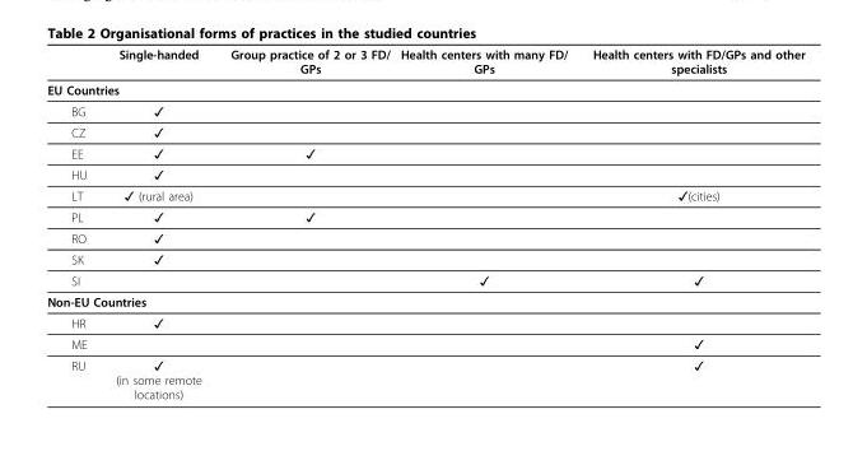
<table><thead><tr><td></td><td>Single-handed</td><td>Group practice of 2 or 3 FD/ GPs</td><td>Health centers with many FD/ GPs</td><td>Health centers with FD/GPs and other specialists</td></tr></thead><tbody><tr><td colspan="5">EU Countries</td></tr><tr><td>BG</td><td>✓</td><td></td><td></td><td></td></tr><tr><td>CZ</td><td>✓</td><td></td><td></td><td></td></tr><tr><td>EE</td><td>✓</td><td>✓</td><td></td><td></td></tr><tr><td>HU</td><td>✓</td><td></td><td></td><td></td></tr><tr><td>LT</td><td>✓ (rural area)</td><td></td><td></td><td>✓(cities)</td></tr><tr><td>PL</td><td>✓</td><td>✓</td><td></td><td></td></tr><tr><td>RO</td><td>✓</td><td></td><td></td><td></td></tr><tr><td>SK</td><td>✓</td><td></td><td></td><td></td></tr><tr><td>SI</td><td></td><td></td><td>✓</td><td>✓</td></tr><tr><td colspan="5">Non-EU Countries</td></tr><tr><td>HR</td><td>✓</td><td></td><td></td><td></td></tr><tr><td>ME</td><td></td><td></td><td></td><td>✓</td></tr><tr><td>RU</td><td>✓ (in some remote locations)</td><td></td><td></td><td>✓</td></tr></tbody></table>